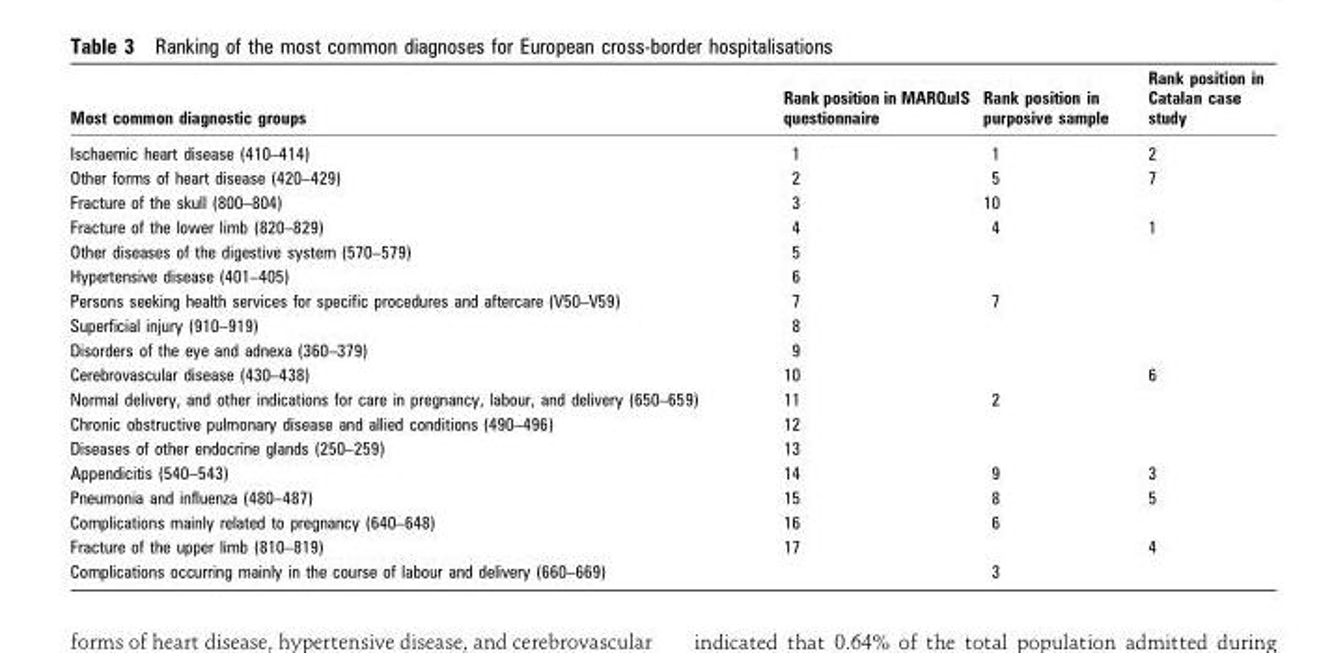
<table><thead><tr><td>Most common diagnostic groups</td><td>Rank position in MARQuIS questionnaire</td><td>Rank position in purposive sample</td><td>Rank position in Catalan case study</td></tr></thead><tbody><tr><td>Ischaemic heart disease (410–414)</td><td>1</td><td>1</td><td>2</td></tr><tr><td>Other forms of heart disease (420–429)</td><td>2</td><td>5</td><td>7</td></tr><tr><td>Fracture of the skull (800–804)</td><td>3</td><td>10</td><td></td></tr><tr><td>Fracture of the lower limb (820–829)</td><td>4</td><td>4</td><td>1</td></tr><tr><td>Other diseases of the digestive system (570–579)</td><td>5</td><td></td><td></td></tr><tr><td>Hypertensive disease (401–405)</td><td>6</td><td></td><td></td></tr><tr><td>Persons seeking health services for specific procedures and aftercare (V50–V59)</td><td>7</td><td>7</td><td></td></tr><tr><td>Superficial injury (910–919)</td><td>8</td><td></td><td></td></tr><tr><td>Disorders of the eye and adnexa (360–379)</td><td>9</td><td></td><td></td></tr><tr><td>Cerebrovascular disease (430–438)</td><td>10</td><td></td><td>6</td></tr><tr><td>Normal delivery, and other indications for care in pregnancy, labour, and delivery (650–659)</td><td>11</td><td>2</td><td></td></tr><tr><td>Chronic obstructive pulmonary disease and allied conditions (490–496)</td><td>12</td><td></td><td></td></tr><tr><td>Diseases of other endocrine glands (250–259)</td><td>13</td><td></td><td></td></tr><tr><td>Appendicitis (540–543)</td><td>14</td><td>9</td><td>3</td></tr><tr><td>Pneumonia and influenza (480–487)</td><td>15</td><td>8</td><td>5</td></tr><tr><td>Complications mainly related to pregnancy (640–648)</td><td>16</td><td>6</td><td></td></tr><tr><td>Fracture of the upper limb (810–819)</td><td>17</td><td></td><td>4</td></tr><tr><td>Complications occurring mainly in the course of labour and delivery (660–669)</td><td></td><td>3</td><td></td></tr></tbody></table>